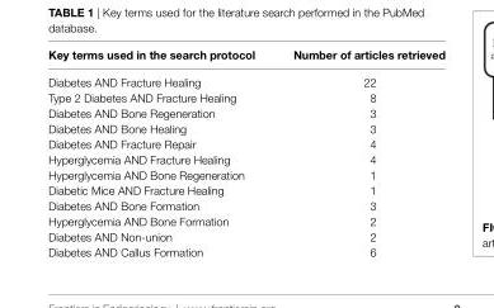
<table><thead><tr><td>Key terms used in the search protocol</td><td>Number of articles retrieved</td></tr></thead><tbody><tr><td>Diabetes AND Fracture Healing</td><td>22</td></tr><tr><td>Type 2 Diabetes AND Fracture Healing</td><td>8</td></tr><tr><td>Diabetes AND Bone Regeneration</td><td>3</td></tr><tr><td>Diabetes AND Bone Healing</td><td>3</td></tr><tr><td>Diabetes AND Fracture Repair</td><td>4</td></tr><tr><td>Hyperglycemia AND Fracture Healing</td><td>4</td></tr><tr><td>Hyperglycemia AND Bone Regeneration</td><td>1</td></tr><tr><td>Diabetic Mice AND Fracture Healing</td><td>1</td></tr><tr><td>Diabetes AND Bone Formation</td><td>3</td></tr><tr><td>Hyperglycemia AND Bone Formation</td><td>2</td></tr><tr><td>Diabetes AND Non-union</td><td>2</td></tr><tr><td>Diabetes AND Callus Formation</td><td>6</td></tr></tbody></table>